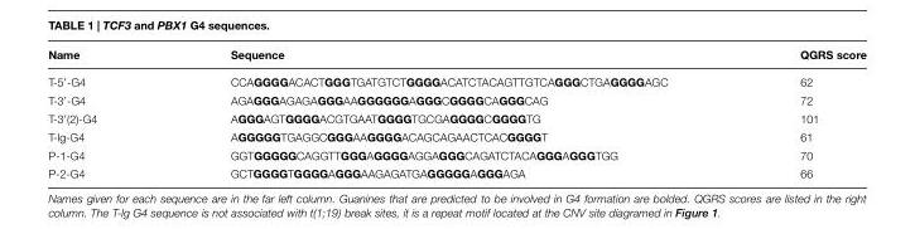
<table><thead><tr><td>Name</td><td>Sequence</td><td>QGRS score</td></tr></thead><tbody><tr><td>T-5′-G4</td><td>CCAGGGGACACTGGGTGATGTCTGGGGACATCTACAGTTGTCAGGGCTGAGGGGAGC</td><td>62</td></tr><tr><td>T-3′-G4</td><td>AGAGGGAGAGAGGGAAGGGGGGAGGGCGGGGCAGGGCAG</td><td>72</td></tr><tr><td>T-3′(2)-G4</td><td>AGGGAGTGGGGACGTGAATGGGGTGCGAGGGGCGGGGTG</td><td>101</td></tr><tr><td>T-lg-G4</td><td>AGGGGGTGAGGCGGGAAGGGGACAGCAGAACTCACGGGGT</td><td>61</td></tr><tr><td>P-1-G4</td><td>GGTGGGGGCAGGTTGGGAGGGGAGGAGGGCAGATCTACAGGGAGGGTGG</td><td>70</td></tr><tr><td>P-2-G4</td><td>GCTGGGGTGGGGAGGGAAGAGATGAGGGGGAGGGAGA</td><td>66</td></tr></tbody></table>